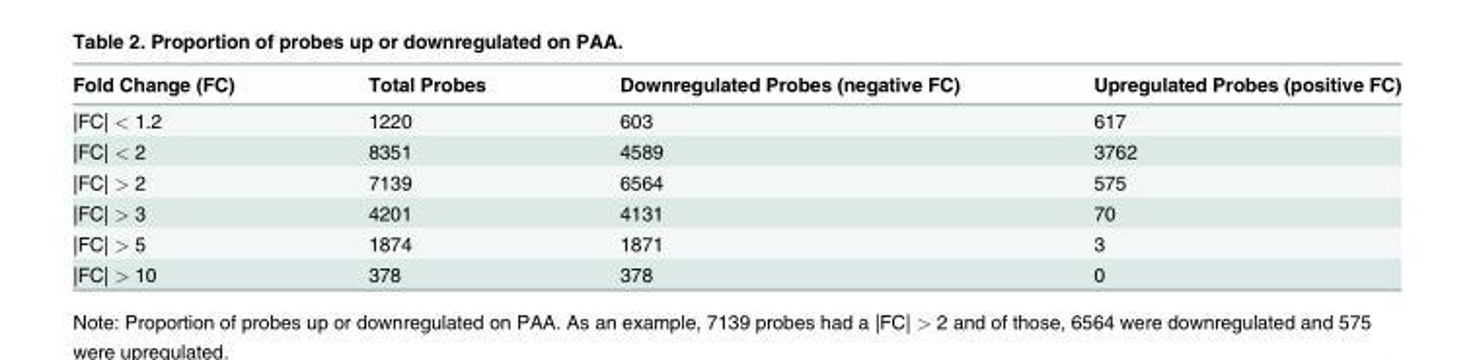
<table><thead><tr><td>Fold Change (FC)</td><td>Total Probes</td><td>Downregulated Probes (negative FC)</td><td>Upregulated Probes (positive FC)</td></tr></thead><tbody><tr><td>|FC| &lt; 1.2</td><td>1220</td><td>603</td><td>617</td></tr><tr><td>|FC| &lt; 2</td><td>8351</td><td>4589</td><td>3762</td></tr><tr><td>|FC| &gt; 2</td><td>7139</td><td>6564</td><td>575</td></tr><tr><td>|FC| &gt; 3</td><td>4201</td><td>4131</td><td>70</td></tr><tr><td>|FC| &gt; 5</td><td>1874</td><td>1871</td><td>3</td></tr><tr><td>|FC| &gt; 10</td><td>378</td><td>378</td><td>0</td></tr></tbody></table>